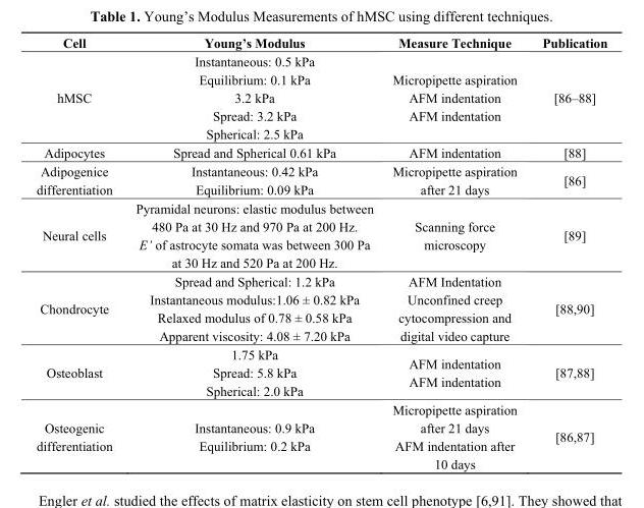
<table><thead><tr><td>Cell</td><td>Young’s Modulus</td><td>Measure Technique</td><td>Publication</td></tr></thead><tbody><tr><td>hMSC</td><td>Instantaneous: 0.5 kPa Equilibrium: 0.1 kPa 3.2 kPa Spread: 3.2 kPa Spherical: 2.5 kPa</td><td>Micropipette aspiration AFM indentation AFM indentation</td><td>[86–88]</td></tr><tr><td>Adipocytes</td><td>Spread and Spherical 0.61 kPa</td><td>AFM indentation</td><td>[88]</td></tr><tr><td>Adipogenice differentiation</td><td>Instantaneous: 0.42 kPa Equilibrium: 0.09 kPa</td><td>Micropipette aspiration after 21 days</td><td>[86]</td></tr><tr><td>Neural cells</td><td>Pyramidal neurons: elastic modulus between 480 Pa at 30 Hz and 970 Pa at 200 Hz. E’ of astrocyte somata was between 300 Pa at 30 Hz and 520 Pa at 200 Hz.</td><td>Scanning force microscopy</td><td>[89]</td></tr><tr><td>Chondrocyte</td><td>Spread and Spherical: 1.2 kPa Instantaneous modulus:1.06 ± 0.82 kPa Relaxed modulus of 0.78 ± 0.58 kPa Apparent viscosity: 4.08 ± 7.20 kPa</td><td>AFM Indentation Unconfined creep cytocompression and digital video capture</td><td>[88,90]</td></tr><tr><td>Osteoblast</td><td>1.75 kPa Spread: 5.8 kPa Spherical: 2.0 kPa</td><td>AFM indentation AFM indentation</td><td>[87,88]</td></tr><tr><td>Osteogenic differentiation</td><td>Instantaneous: 0.9 kPa Equilibrium: 0.2 kPa</td><td>Micropipette aspiration after 21 days AFM indentation after 10 days</td><td>[86,87]</td></tr></tbody></table>